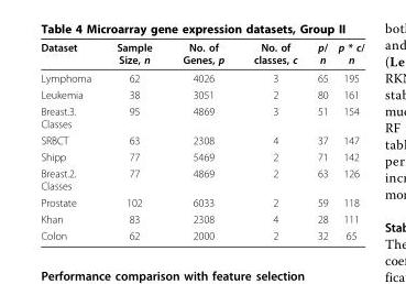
<table><thead><tr><td>Dataset</td><td>Sample Size, n</td><td>No. of Genes, p</td><td>No. of classes, c</td><td>p/ n</td><td>p * c/ n</td></tr></thead><tbody><tr><td>Lymphoma</td><td>62</td><td>4026</td><td>3</td><td>65</td><td>195</td></tr><tr><td>Leukemia</td><td>38</td><td>3051</td><td>2</td><td>80</td><td>161</td></tr><tr><td>Breast.3. Classes</td><td>95</td><td>4869</td><td>3</td><td>51</td><td>154</td></tr><tr><td>SRBCT</td><td>63</td><td>2308</td><td>4</td><td>37</td><td>147</td></tr><tr><td>Shipp</td><td>77</td><td>5469</td><td>2</td><td>71</td><td>142</td></tr><tr><td>Breast.2. Classes</td><td>77</td><td>4869</td><td>2</td><td>63</td><td>126</td></tr><tr><td>Prostate</td><td>102</td><td>6033</td><td>2</td><td>59</td><td>118</td></tr><tr><td>Khan</td><td>83</td><td>2308</td><td>4</td><td>28</td><td>111</td></tr><tr><td>Colon</td><td>62</td><td>2000</td><td>2</td><td>32</td><td>65</td></tr></tbody></table>